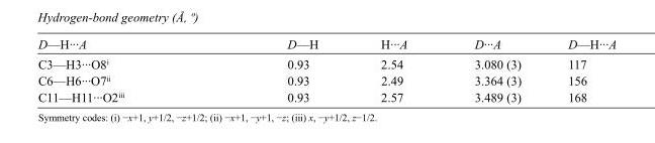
<table><tbody><tr><td>D—H···A</td><td>D—H</td><td>H···A</td><td>D···A</td><td>D—H···A</td></tr><tr><td>C3—H3···O8<sup>i</sup></td><td>0.93</td><td>2.54</td><td>3.080 (3)</td><td>117</td></tr><tr><td>C6—H6···O7<sup>ii</sup></td><td>0.93</td><td>2.49</td><td>3.364 (3)</td><td>156</td></tr><tr><td>C11—H11···O2<sup>iii</sup></td><td>0.93</td><td>2.57</td><td>3.489 (3)</td><td>168</td></tr></tbody></table>